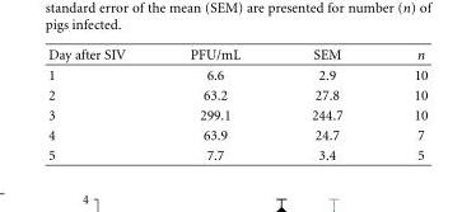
<table><thead><tr><td>Day after SIV</td><td>PFU/mL</td><td>SEM</td><td>n</td></tr></thead><tbody><tr><td>1</td><td>6.6</td><td>2.9</td><td>10</td></tr><tr><td>2</td><td>63.2</td><td>27.8</td><td>10</td></tr><tr><td>3</td><td>299.1</td><td>244.7</td><td>10</td></tr><tr><td>4</td><td>63.9</td><td>24.7</td><td>7</td></tr><tr><td>5</td><td>7.7</td><td>3.4</td><td>5</td></tr></tbody></table>